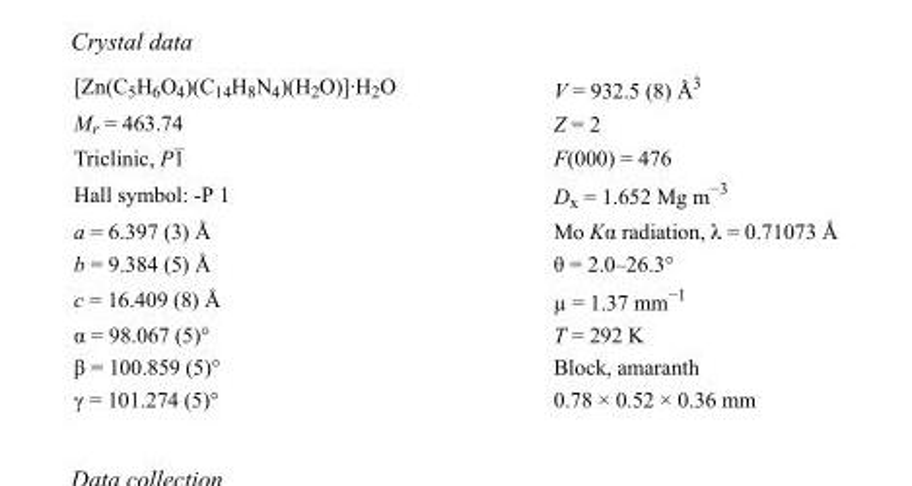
<table><tbody><tr><td>[Zn(C<sub>5</sub>H<sub>6</sub>O<sub>4</sub>)(C<sub>14</sub>H<sub>8</sub>N<sub>4</sub>)(H<sub>2</sub>O)]·H<sub>2</sub>O</td><td>V = 932.5 (8) Å<sup>3</sup></td></tr><tr><td>M<sub>r</sub> = 463.74</td><td>Z = 2</td></tr><tr><td>Triclinic, P1</td><td>F(000) = 476</td></tr><tr><td>Hall symbol: -P 1</td><td>D<sub>x</sub> = 1.652 Mg m<sup>−3</sup></td></tr><tr><td>a = 6.397 (3) Å</td><td>Mo Kα radiation, λ = 0.71073 Å</td></tr><tr><td>b = 9.384 (5) Å</td><td>θ = 2.0–26.3°</td></tr><tr><td>c = 16.409 (8) Å</td><td>µ = 1.37 mm<sup>−1</sup></td></tr><tr><td>α = 98.067 (5)°</td><td>T = 292 K</td></tr><tr><td>β = 100.859 (5)°</td><td>Block, amaranth</td></tr><tr><td>γ = 101.274 (5)°</td><td>0.78 × 0.52 × 0.36 mm</td></tr></tbody></table>